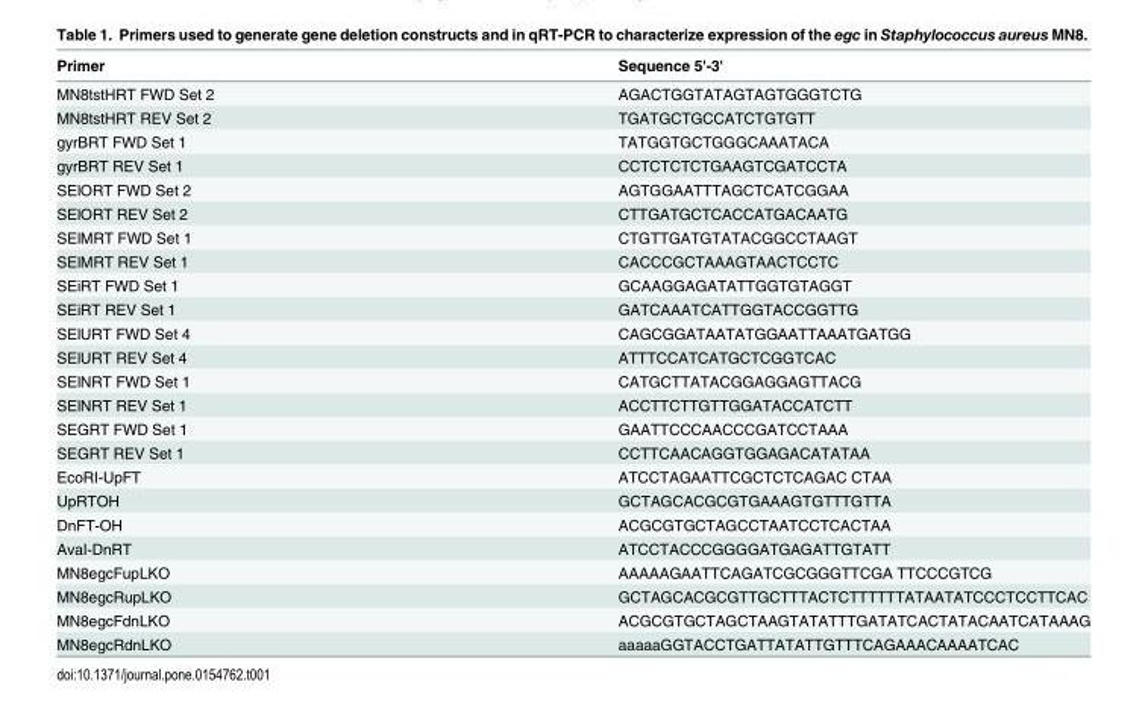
<table><thead><tr><td>Primer</td><td>Sequence 5&#x27;-3&#x27;</td></tr></thead><tbody><tr><td>MN8tstHRT FWD Set 2</td><td>AGACTGGTATAGTAGTGGGTCTG</td></tr><tr><td>MN8tstHRT REV Set 2</td><td>TGATGCTGCCATCTGTGTT</td></tr><tr><td>gyrBRT FWD Set 1</td><td>TATGGTGCTGGGCAAATACA</td></tr><tr><td>gyrBRT REV Set 1</td><td>CCTCTCTCTGAAGTCGATCCTA</td></tr><tr><td>SElORT FWD Set 2</td><td>AGTGGAATTTAGCTCATCGGAA</td></tr><tr><td>SElORT REV Set 2</td><td>CTTGATGCTCACCATGACAATG</td></tr><tr><td>SElMRT FWD Set 1</td><td>CTGTTGATGTATACGGCCTAAGT</td></tr><tr><td>SElMRT REV Set 1</td><td>CACCCGCTAAAGTAACTCCTC</td></tr><tr><td>SEiRT FWD Set 1</td><td>GCAAGGAGATATTGGTGTAGGT</td></tr><tr><td>SEiRT REV Set 1</td><td>GATCAAATCATTGGTACCGGTTG</td></tr><tr><td>SElURT FWD Set 4</td><td>CAGCGGATAATATGGAATTAAATGATGG</td></tr><tr><td>SElURT REV Set 4</td><td>ATTTCCATCATGCTCGGTCAC</td></tr><tr><td>SElNRT FWD Set 1</td><td>CATGCTTATACGGAGGAGTTACG</td></tr><tr><td>SElNRT REV Set 1</td><td>ACCTTCTTGTTGGATACCATCTT</td></tr><tr><td>SEGRT FWD Set 1</td><td>GAATTCCCAACCCGATCCTAAA</td></tr><tr><td>SEGRT REV Set 1</td><td>CCTTCAACAGGTGGAGACATATAA</td></tr><tr><td>EcoRI-UpFT</td><td>ATCCTAGAATTCGCTCTCAGAC CTAA</td></tr><tr><td>UpRTOH</td><td>GCTAGCACGCGTGAAAGTGTTTGTTA</td></tr><tr><td>DnFT-OH</td><td>ACGCGTGCTAGCCTAATCCTCACTAA</td></tr><tr><td>AvaI-DnRT</td><td>ATCCTACCCGGGGATGAGATTGTATT</td></tr><tr><td>MN8egcFupLKO</td><td>AAAAAGAATTCAGATCGCGGGTTCGA TTCCCGTCG</td></tr><tr><td>MN8egcRupLKO</td><td>GCTAGCACGCGTTGCTTTACTCTTTTTTATAATATCCCTCCTTCAC</td></tr><tr><td>MN8egcFdnLKO</td><td>ACGCGTGCTAGCTAAGTATATTTGATATCACTATACAATCATAAAG</td></tr><tr><td>MN8egcRdnLKO</td><td>aaaaaGGTACCTGATTATATTGTTTCAGAAACAAAATCAC</td></tr></tbody></table>